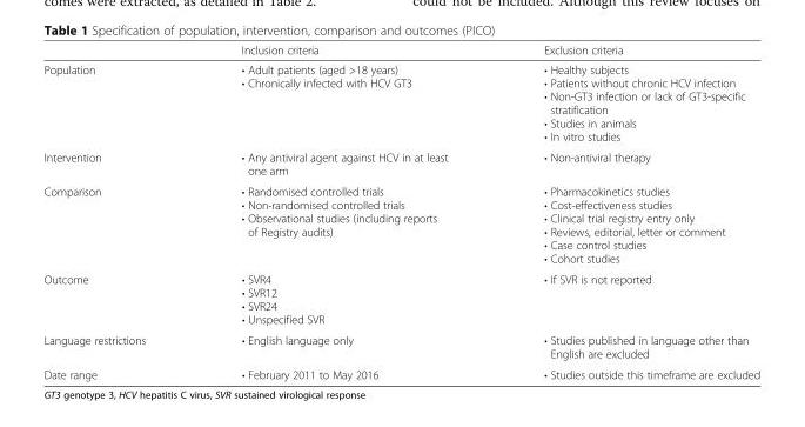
<table><thead><tr><td></td><td>Inclusion criteria</td><td>Exclusion criteria</td></tr></thead><tbody><tr><td>Population</td><td>• Adult patients (aged &gt;18 years) • Chronically infected with HCV GT3</td><td>• Healthy subjects • Patients without chronic HCV infection • Non-GT3 infection or lack of GT3-specific stratification • Studies in animals • In vitro studies</td></tr><tr><td>Intervention</td><td>• Any antiviral agent against HCV in at least one arm</td><td>• Non-antiviral therapy</td></tr><tr><td>Comparison</td><td>• Randomised controlled trials • Non-randomised controlled trials • Observational studies (including reports of Registry audits)</td><td>• Pharmacokinetics studies • Cost-effectiveness studies • Clinical trial registry entry only • Reviews, editorial, letter or comment • Case control studies • Cohort studies</td></tr><tr><td>Outcome</td><td>• SVR4 • SVR12 • SVR24 • Unspecified SVR</td><td>• If SVR is not reported</td></tr><tr><td>Language restrictions</td><td>• English language only</td><td>• Studies published in language other than English are excluded</td></tr><tr><td>Date range</td><td>• February 2011 to May 2016</td><td>• Studies outside this timeframe are excluded</td></tr></tbody></table>